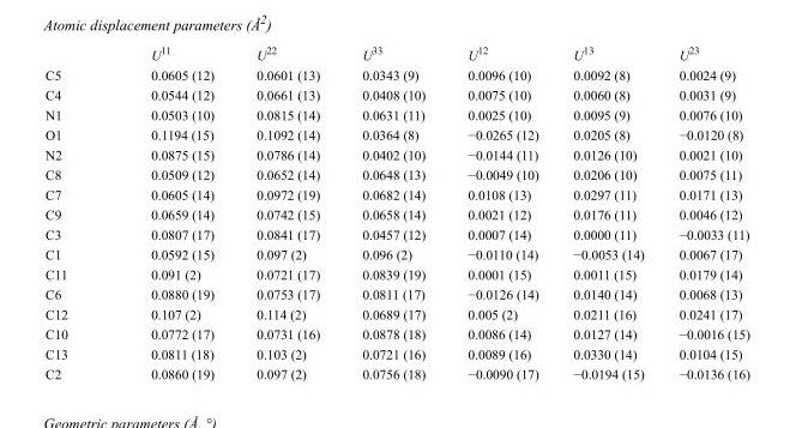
<table><thead><tr><td></td><td>U<sup>11</sup></td><td>U<sup>22</sup></td><td>U<sup>33</sup></td><td>U<sup>12</sup></td><td>U<sup>13</sup></td><td>U<sup>23</sup></td></tr></thead><tbody><tr><td>C5</td><td>0.0605 (12)</td><td>0.0601 (13)</td><td>0.0343 (9)</td><td>0.0096 (10)</td><td>0.0092 (8)</td><td>0.0024 (9)</td></tr><tr><td>C4</td><td>0.0544 (12)</td><td>0.0661 (13)</td><td>0.0408 (10)</td><td>0.0075 (10)</td><td>0.0060 (8)</td><td>0.0031 (9)</td></tr><tr><td>N1</td><td>0.0503 (10)</td><td>0.0815 (14)</td><td>0.0631 (11)</td><td>0.0025 (10)</td><td>0.0095 (9)</td><td>0.0076 (10)</td></tr><tr><td>O1</td><td>0.1194 (15)</td><td>0.1092 (14)</td><td>0.0364 (8)</td><td>−0.0265 (12)</td><td>0.0205 (8)</td><td>−0.0120 (8)</td></tr><tr><td>N2</td><td>0.0875 (15)</td><td>0.0786 (14)</td><td>0.0402 (10)</td><td>−0.0144 (11)</td><td>0.0126 (10)</td><td>0.0021 (10)</td></tr><tr><td>C8</td><td>0.0509 (12)</td><td>0.0652 (14)</td><td>0.0648 (13)</td><td>−0.0049 (10)</td><td>0.0206 (10)</td><td>0.0075 (11)</td></tr><tr><td>C7</td><td>0.0605 (14)</td><td>0.0972 (19)</td><td>0.0682 (14)</td><td>0.0108 (13)</td><td>0.0297 (11)</td><td>0.0171 (13)</td></tr><tr><td>C9</td><td>0.0659 (14)</td><td>0.0742 (15)</td><td>0.0658 (14)</td><td>0.0021 (12)</td><td>0.0176 (11)</td><td>0.0046 (12)</td></tr><tr><td>C3</td><td>0.0807 (17)</td><td>0.0841 (17)</td><td>0.0457 (12)</td><td>0.0007 (14)</td><td>0.0000 (11)</td><td>−0.0033 (11)</td></tr><tr><td>C1</td><td>0.0592 (15)</td><td>0.097 (2)</td><td>0.096 (2)</td><td>−0.0110 (14)</td><td>−0.0053 (14)</td><td>0.0067 (17)</td></tr><tr><td>C11</td><td>0.091 (2)</td><td>0.0721 (17)</td><td>0.0839 (19)</td><td>0.0001 (15)</td><td>0.0011 (15)</td><td>0.0179 (14)</td></tr><tr><td>C6</td><td>0.0880 (19)</td><td>0.0753 (17)</td><td>0.0811 (17)</td><td>−0.0126 (14)</td><td>0.0140 (14)</td><td>0.0068 (13)</td></tr><tr><td>C12</td><td>0.107 (2)</td><td>0.114 (2)</td><td>0.0689 (17)</td><td>0.005 (2)</td><td>0.0211 (16)</td><td>0.0241 (17)</td></tr><tr><td>C10</td><td>0.0772 (17)</td><td>0.0731 (16)</td><td>0.0878 (18)</td><td>0.0086 (14)</td><td>0.0127 (14)</td><td>−0.0016 (15)</td></tr><tr><td>C13</td><td>0.0811 (18)</td><td>0.103 (2)</td><td>0.0721 (16)</td><td>0.0089 (16)</td><td>0.0330 (14)</td><td>0.0104 (15)</td></tr><tr><td>C2</td><td>0.0860 (19)</td><td>0.097 (2)</td><td>0.0756 (18)</td><td>−0.0090 (17)</td><td>−0.0194 (15)</td><td>−0.0136 (16)</td></tr></tbody></table>